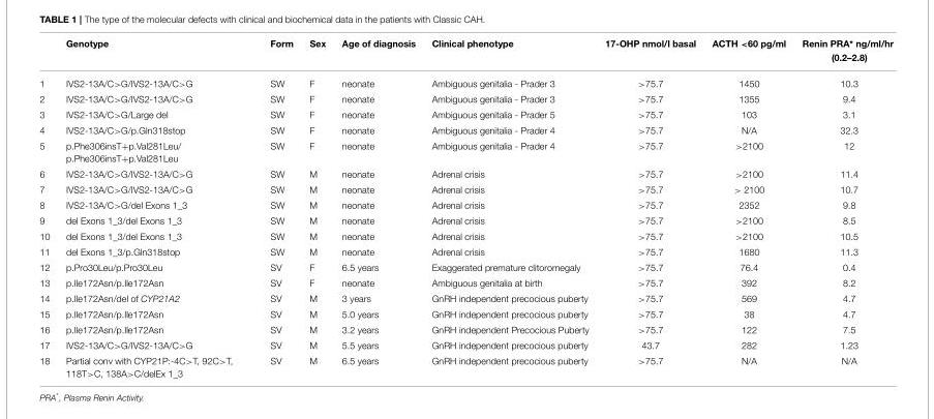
<table><thead><tr><td></td><td>Genotype</td><td>Form</td><td>Sex</td><td>Age of diagnosis</td><td>Clinical phenotype</td><td>17-OHP nmol/l basal</td><td>ACTH &lt;60 pg/ml</td><td>Renin PRA* ng/ml/hr (0.2–2.8)</td></tr></thead><tbody><tr><td>1</td><td>IVS2-13A/C&gt;G/IVS2-13A/C&gt;G</td><td>SW</td><td>F</td><td>neonate</td><td>Ambiguous genitalia - Prader 3</td><td>&gt;75.7</td><td>1450</td><td>10.3</td></tr><tr><td>2</td><td>IVS2-13A/C&gt;G/IVS2-13A/C&gt;G</td><td>SW</td><td>F</td><td>neonate</td><td>Ambiguous genitalia - Prader 3</td><td>&gt;75.7</td><td>1355</td><td>9.4</td></tr><tr><td>3</td><td>IVS2-13A/C&gt;G/Large del</td><td>SW</td><td>F</td><td>neonate</td><td>Ambiguous genitalia - Prader 5</td><td>&gt;75.7</td><td>103</td><td>3.1</td></tr><tr><td>4</td><td>IVS2-13A/C&gt;G/p.Gln318stop</td><td>SW</td><td>F</td><td>neonate</td><td>Ambiguous genitalia - Prader 4</td><td>&gt;75.7</td><td>N/A</td><td>32.3</td></tr><tr><td>5</td><td>p.Phe306insT+p.Val281Leu/ p.Phe306insT+p.Val281Leu</td><td>SW</td><td>F</td><td>neonate</td><td>Ambiguous genitalia - Prader 4</td><td>&gt;75.7</td><td>&gt;2100</td><td>12</td></tr><tr><td>6</td><td>IVS2-13A/C&gt;G/IVS2-13A/C&gt;G</td><td>SW</td><td>M</td><td>neonate</td><td>Adrenal crisis</td><td>&gt;75.7</td><td>&gt;2100</td><td>11.4</td></tr><tr><td>7</td><td>IVS2-13A/C&gt;G/IVS2-13A/C&gt;G</td><td>SW</td><td>M</td><td>neonate</td><td>Adrenal crisis</td><td>&gt;75.7</td><td>&gt; 2100</td><td>10.7</td></tr><tr><td>8</td><td>IVS2-13A/C&gt;G/del Exons 1_3</td><td>SW</td><td>M</td><td>neonate</td><td>Adrenal crisis</td><td>&gt;75.7</td><td>2352</td><td>9.8</td></tr><tr><td>9</td><td>del Exons 1_3/del Exons 1_3</td><td>SW</td><td>M</td><td>neonate</td><td>Adrenal crisis</td><td>&gt;75.7</td><td>&gt;2100</td><td>8.5</td></tr><tr><td>10</td><td>del Exons 1_3/del Exons 1_3</td><td>SW</td><td>M</td><td>neonate</td><td>Adrenal crisis</td><td>&gt;75.7</td><td>&gt;2100</td><td>10.5</td></tr><tr><td>11</td><td>del Exons 1_3/p.Gln318stop</td><td>SW</td><td>M</td><td>neonate</td><td>Adrenal crisis</td><td>&gt;75.7</td><td>1680</td><td>11.3</td></tr><tr><td>12</td><td>p.Pro30Leu/p.Pro30Leu</td><td>SV</td><td>F</td><td>6.5 years</td><td>Exaggerated premature clitoromegaly</td><td>&gt;75.7</td><td>76.4</td><td>0.4</td></tr><tr><td>13</td><td>p.Ile172Asn/p.Ile172Asn</td><td>SV</td><td>F</td><td>neonate</td><td>Ambiguous genitalia at birth</td><td>&gt;75.7</td><td>392</td><td>8.2</td></tr><tr><td>14</td><td>p.Ile172Asn/del of CYP21A2</td><td>SV</td><td>M</td><td>3 years</td><td>GnRH independent precocious puberty</td><td>&gt;75.7</td><td>569</td><td>4.7</td></tr><tr><td>15</td><td>p.Ile172Asn/p.Ile172Asn</td><td>SV</td><td>M</td><td>5.0 years</td><td>GnRH independent precocious puberty</td><td>&gt;75.7</td><td>38</td><td>4.7</td></tr><tr><td>16</td><td>p.Ile172Asn/p.Ile172Asn</td><td>SV</td><td>M</td><td>3.2 years</td><td>GnRH independent Precocious Puberty</td><td>&gt;75.7</td><td>122</td><td>7.5</td></tr><tr><td>17</td><td>IVS2-13A/C&gt;G/IVS2-13A/C&gt;G</td><td>SV</td><td>M</td><td>5.5 years</td><td>GnRH independent precocious puberty</td><td>43.7</td><td>282</td><td>1.23</td></tr><tr><td>18</td><td>Partial conv with CYP21P:-4C&gt;T, 92C&gt;T, 118T&gt;C, 138A&gt;C/delEx 1_3</td><td>SV</td><td>M</td><td>6.5 years</td><td>GnRH independent precocious puberty</td><td>&gt;75.7</td><td>N/A</td><td>N/A</td></tr></tbody></table>